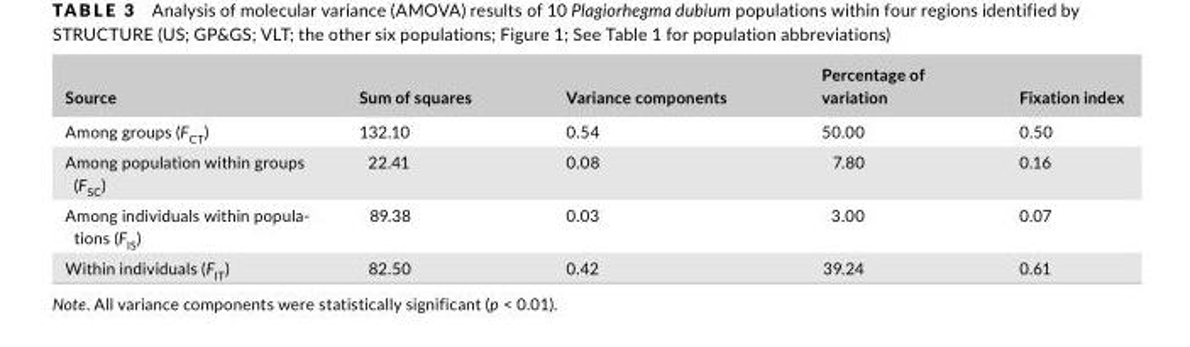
<table><thead><tr><td>Source</td><td>Sum of squares</td><td>Variance components</td><td>Percentage of variation</td><td>Fixation index</td></tr></thead><tbody><tr><td>Among groups (F<sub>CT</sub>)</td><td>132.10</td><td>0.54</td><td>50.00</td><td>0.50</td></tr><tr><td>Among population within groups (F<sub>SC</sub>)</td><td>22.41</td><td>0.08</td><td>7.80</td><td>0.16</td></tr><tr><td>Among individuals within popula- tions (FIS)</td><td>89.38</td><td>0.03</td><td>3.00</td><td>0.07</td></tr><tr><td>Within individuals (F<sub>IT</sub>)</td><td>82.50</td><td>0.42</td><td>39.24</td><td>0.61</td></tr></tbody></table>